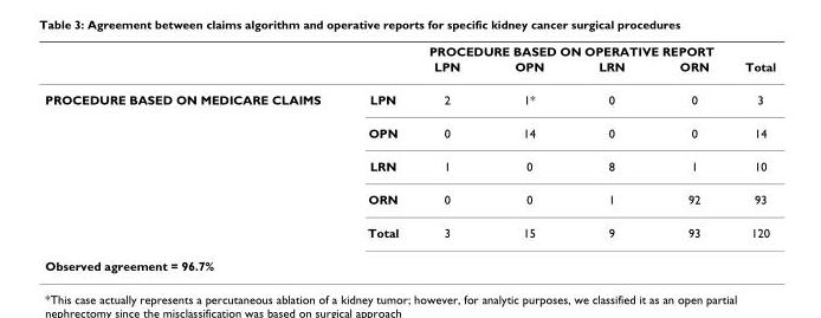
<table><thead><tr><td rowspan="2"></td><td rowspan="2"></td><td colspan="4">PROCEDURE BASED ON OPERATIVE REPORT</td><td rowspan="2">Total</td></tr><tr><td>LPN</td><td>OPN</td><td>LRN</td><td>ORN</td></tr></thead><tbody><tr><td rowspan="5">PROCEDURE BASED ON MEDICARE CLAIMS</td><td>LPN</td><td>2</td><td>1*</td><td>0</td><td>0</td><td>3</td></tr><tr><td>OPN</td><td>0</td><td>14</td><td>0</td><td>0</td><td>14</td></tr><tr><td>LRN</td><td>1</td><td>0</td><td>8</td><td>1</td><td>10</td></tr><tr><td>ORN</td><td>0</td><td>0</td><td>1</td><td>92</td><td>93</td></tr><tr><td>Total</td><td>3</td><td>15</td><td>9</td><td>93</td><td>120</td></tr><tr><td colspan="7">Observed agreement = 96.7%</td></tr></tbody></table>